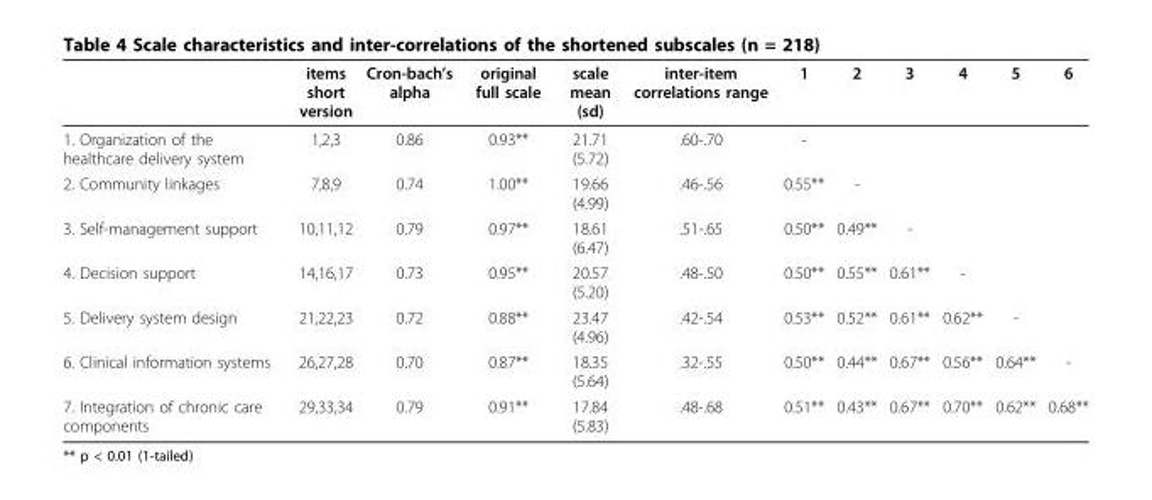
<table><thead><tr><td></td><td>items short version</td><td>Cron-bach’s alpha</td><td>original full scale</td><td>scale mean (sd)</td><td>inter-item correlations range</td><td>1</td><td>2</td><td>3</td><td>4</td><td>5</td><td>6</td></tr></thead><tbody><tr><td>1. Organization of the healthcare delivery system</td><td>1,2,3</td><td>0.86</td><td>0.93**</td><td>21.71 (5.72)</td><td>.60-.70</td><td>-</td><td></td><td></td><td></td><td></td><td></td></tr><tr><td>2. Community linkages</td><td>7,8,9</td><td>0.74</td><td>1.00**</td><td>19.66 (4.99)</td><td>.46-.56</td><td>0.55**</td><td>-</td><td></td><td></td><td></td><td></td></tr><tr><td>3. Self-management support</td><td>10,11,12</td><td>0.79</td><td>0.97**</td><td>18.61 (6.47)</td><td>.51-.65</td><td>0.50**</td><td>0.49**</td><td>-</td><td></td><td></td><td></td></tr><tr><td>4. Decision support</td><td>14,16,17</td><td>0.73</td><td>0.95**</td><td>20.57 (5.20)</td><td>.48-.50</td><td>0.50**</td><td>0.55**</td><td>0.61**</td><td>-</td><td></td><td></td></tr><tr><td>5. Delivery system design</td><td>21,22,23</td><td>0.72</td><td>0.88**</td><td>23.47 (4.96)</td><td>.42-.54</td><td>0.53**</td><td>0.52**</td><td>0.61**</td><td>0.62**</td><td>-</td><td></td></tr><tr><td>6. Clinical information systems</td><td>26,27,28</td><td>0.70</td><td>0.87**</td><td>18.35 (5.64)</td><td>.32-.55</td><td>0.50**</td><td>0.44**</td><td>0.67**</td><td>0.56**</td><td>0.64**</td><td>-</td></tr><tr><td>7. Integration of chronic care components</td><td>29,33,34</td><td>0.79</td><td>0.91**</td><td>17.84 (5.83)</td><td>.48-.68</td><td>0.51**</td><td>0.43**</td><td>0.67**</td><td>0.70**</td><td>0.62**</td><td>0.68**</td></tr></tbody></table>